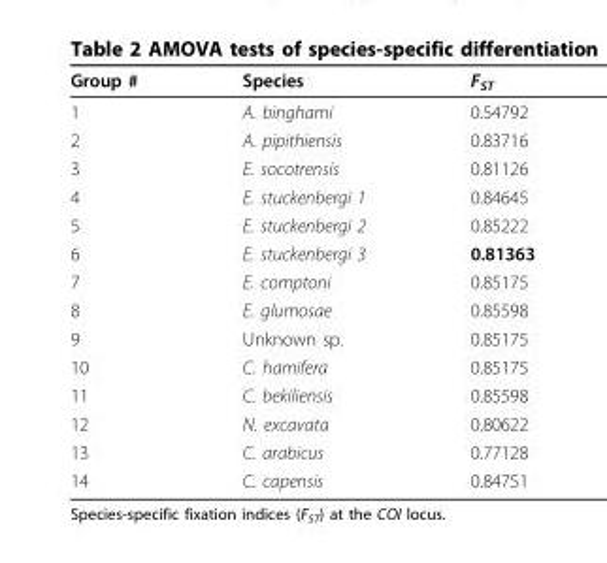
<table><thead><tr><td>Group #</td><td>Species</td><td>F<sub>ST</sub></td></tr></thead><tbody><tr><td>1</td><td>A. binghami</td><td>0.54792</td></tr><tr><td>2</td><td>A. pipithiensis</td><td>0.83716</td></tr><tr><td>3</td><td>E. socotrensis</td><td>0.81126</td></tr><tr><td>4</td><td>E. stuckenbergi 1</td><td>0.84645</td></tr><tr><td>5</td><td>E. stuckenbergi 2</td><td>0.85222</td></tr><tr><td>6</td><td>E. stuckenbergi 3</td><td>0.81363</td></tr><tr><td>7</td><td>E. comptoni</td><td>0.85175</td></tr><tr><td>8</td><td>E. glumosae</td><td>0.85598</td></tr><tr><td>9</td><td>Unknown sp.</td><td>0.85175</td></tr><tr><td>10</td><td>C. hamifera</td><td>0.85175</td></tr><tr><td>11</td><td>C. bekiliensis</td><td>0.85598</td></tr><tr><td>12</td><td>N. excavata</td><td>0.80622</td></tr><tr><td>13</td><td>C. arabicus</td><td>0.77128</td></tr><tr><td>14</td><td>C. capensis</td><td>0.84751</td></tr></tbody></table>